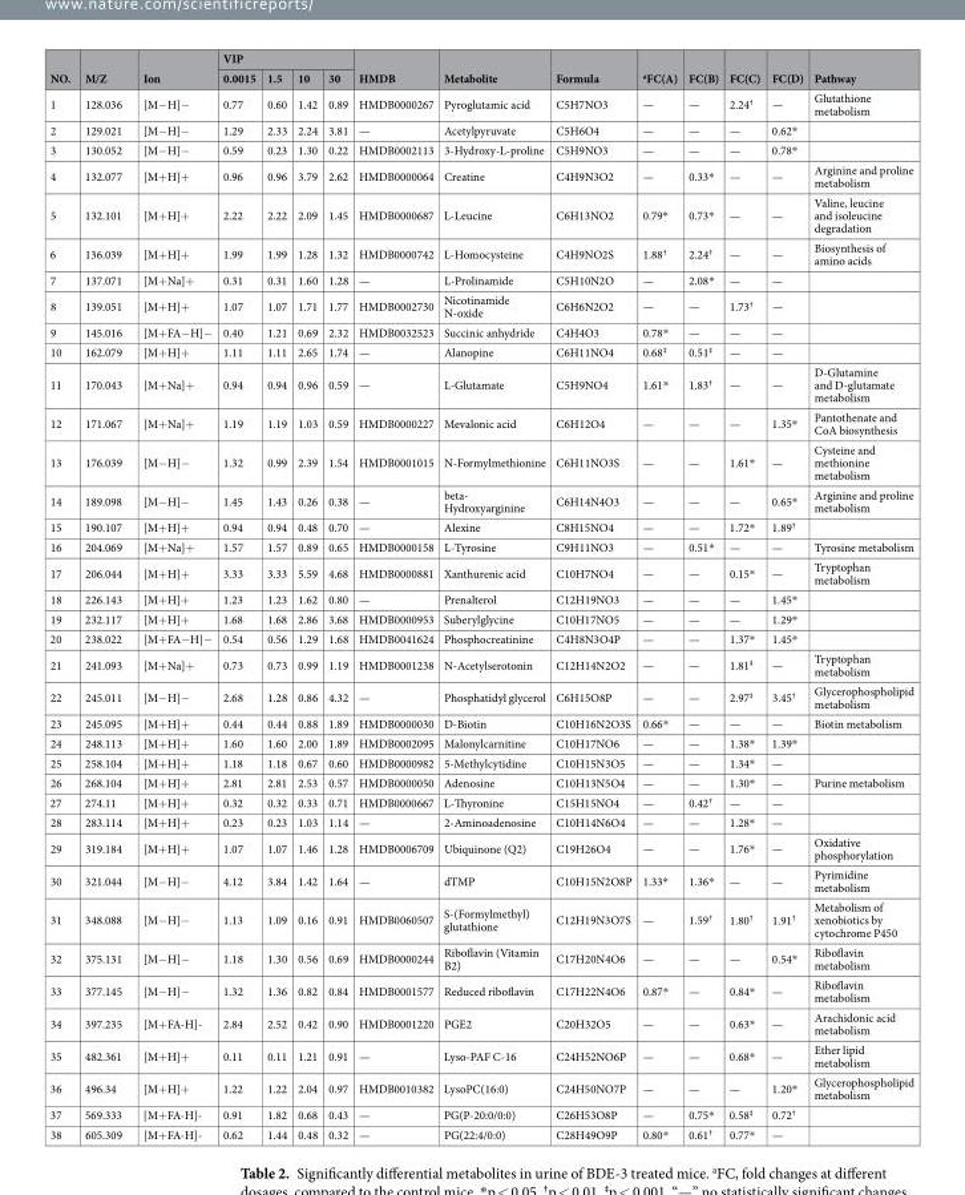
<table><thead><tr><td rowspan="2">NO.</td><td rowspan="2">M/Z</td><td rowspan="2">Ion</td><td colspan="4">VIP</td><td rowspan="2">HMDB</td><td rowspan="2">Metabolite</td><td rowspan="2">Formula</td><td rowspan="2"><sup>a</sup>FC(A)</td><td rowspan="2">FC(B)</td><td rowspan="2">FC(C)</td><td rowspan="2">FC(D)</td><td rowspan="2">Pathway</td></tr><tr><td>0.0015</td><td>1.5</td><td>10</td><td>30</td></tr></thead><tbody><tr><td>1</td><td>128.036</td><td>[M−H]−</td><td>0.77</td><td>0.60</td><td>1.42</td><td>0.89</td><td>HMDB0000267</td><td>Pyroglutamic acid</td><td>C5H7NO3</td><td>—</td><td>—</td><td>2.24<sup>†</sup></td><td>—</td><td>Glutathione metabolism</td></tr><tr><td>2</td><td>129.021</td><td>[M−H]−</td><td>1.29</td><td>2.33</td><td>2.24</td><td>3.81</td><td>—</td><td>Acetylpyruvate</td><td>C5H6O4</td><td>—</td><td>—</td><td>—</td><td>0.62*</td><td></td></tr><tr><td>3</td><td>130.052</td><td>[M−H]−</td><td>0.59</td><td>0.23</td><td>1.30</td><td>0.22</td><td>HMDB0002113</td><td>3-Hydroxy-L-proline</td><td>C5H9NO3</td><td>—</td><td>—</td><td>—</td><td>0.78*</td><td></td></tr><tr><td>4</td><td>132.077</td><td>[M+H]+</td><td>0.96</td><td>0.96</td><td>3.79</td><td>2.62</td><td>HMDB0000064</td><td>Creatine</td><td>C4H9N3O2</td><td>—</td><td>0.33*</td><td>—</td><td>—</td><td>Arginine and proline metabolism</td></tr><tr><td>5</td><td>132.101</td><td>[M+H]+</td><td>2.22</td><td>2.22</td><td>2.09</td><td>1.45</td><td>HMDB0000687</td><td>L-Leucine</td><td>C6H13NO2</td><td>0.79*</td><td>0.73*</td><td>—</td><td>—</td><td>Valine, leucine and isoleucine degradation</td></tr><tr><td>6</td><td>136.039</td><td>[M+H]+</td><td>1.99</td><td>1.99</td><td>1.28</td><td>1.32</td><td>HMDB0000742</td><td>L-Homocysteine</td><td>C4H9NO2S</td><td>1.88<sup>†</sup></td><td>2.24<sup>†</sup></td><td>—</td><td>—</td><td>Biosynthesis of amino acids</td></tr><tr><td>7</td><td>137.071</td><td>[M+Na]+</td><td>0.31</td><td>0.31</td><td>1.60</td><td>1.28</td><td>—</td><td>L-Prolinamide</td><td>C5H10N2O</td><td>—</td><td>2.08*</td><td>—</td><td>—</td><td></td></tr><tr><td>8</td><td>139.051</td><td>[M+H]+</td><td>1.07</td><td>1.07</td><td>1.71</td><td>1.77</td><td>HMDB0002730</td><td>Nicotinamide N-oxide</td><td>C6H6N2O2</td><td>—</td><td>—</td><td>1.73<sup>†</sup></td><td>—</td><td></td></tr><tr><td>9</td><td>145.016</td><td>[M+FA−H]−</td><td>0.40</td><td>1.21</td><td>0.69</td><td>2.32</td><td>HMDB0032523</td><td>Succinic anhydride</td><td>C4H4O3</td><td>0.78*</td><td>—</td><td>—</td><td>—</td><td></td></tr><tr><td>10</td><td>162.079</td><td>[M+H]+</td><td>1.11</td><td>1.11</td><td>2.65</td><td>1.74</td><td>—</td><td>Alanopine</td><td>C6H11NO4</td><td>0.68<sup>‡</sup></td><td>0.51<sup>‡</sup></td><td>—</td><td>—</td><td></td></tr><tr><td>11</td><td>170.043</td><td>[M+Na]+</td><td>0.94</td><td>0.94</td><td>0.96</td><td>0.59</td><td>—</td><td>L-Glutamate</td><td>C5H9NO4</td><td>1.61*</td><td>1.83<sup>†</sup></td><td>—</td><td>—</td><td>D-Glutamine and D-glutamate metabolism</td></tr><tr><td>12</td><td>171.067</td><td>[M+Na]+</td><td>1.19</td><td>1.19</td><td>1.03</td><td>0.59</td><td>HMDB0000227</td><td>Mevalonic acid</td><td>C6H12O4</td><td>—</td><td>—</td><td>—</td><td>1.35*</td><td>Pantothenate and CoA biosynthesis</td></tr><tr><td>13</td><td>176.039</td><td>[M−H]−</td><td>1.32</td><td>0.99</td><td>2.39</td><td>1.54</td><td>HMDB0001015</td><td>N-Formylmethionine</td><td>C6H11NO3S</td><td>—</td><td>—</td><td>1.61*</td><td>—</td><td>Cysteine and methionine metabolism</td></tr><tr><td>14</td><td>189.098</td><td>[M−H]−</td><td>1.45</td><td>1.43</td><td>0.26</td><td>0.38</td><td>—</td><td>beta- Hydroxyarginine</td><td>C6H14N4O3</td><td>—</td><td>—</td><td>—</td><td>0.65*</td><td>Arginine and proline metabolism</td></tr><tr><td>15</td><td>190.107</td><td>[M+H]+</td><td>0.94</td><td>0.94</td><td>0.48</td><td>0.70</td><td>—</td><td>Alexine</td><td>C8H15NO4</td><td>—</td><td>—</td><td>1.72*</td><td>1.89<sup>†</sup></td><td></td></tr><tr><td>16</td><td>204.069</td><td>[M+Na]+</td><td>1.57</td><td>1.57</td><td>0.89</td><td>0.65</td><td>HMDB0000158</td><td>L-Tyrosine</td><td>C9H11NO3</td><td>—</td><td>0.51*</td><td>—</td><td>—</td><td>Tyrosine metabolism</td></tr><tr><td>17</td><td>206.044</td><td>[M+H]+</td><td>3.33</td><td>3.33</td><td>5.59</td><td>4.68</td><td>HMDB0000881</td><td>Xanthurenic acid</td><td>C10H7NO4</td><td>—</td><td>—</td><td>0.15*</td><td>—</td><td>Tryptophan metabolism</td></tr><tr><td>18</td><td>226.143</td><td>[M+H]+</td><td>1.23</td><td>1.23</td><td>1.62</td><td>0.80</td><td>—</td><td>Prenalterol</td><td>C12H19NO3</td><td>—</td><td>—</td><td>—</td><td>1.45*</td><td></td></tr><tr><td>19</td><td>232.117</td><td>[M+H]+</td><td>1.68</td><td>1.68</td><td>2.86</td><td>3.68</td><td>HMDB0000953</td><td>Suberylglycine</td><td>C10H17NO5</td><td>—</td><td>—</td><td>—</td><td>1.29*</td><td></td></tr><tr><td>20</td><td>238.022</td><td>[M+FA−H]−</td><td>0.54</td><td>0.56</td><td>1.29</td><td>1.68</td><td>HMDB0041624</td><td>Phosphocreatinine</td><td>C4H8N3O4P</td><td>—</td><td>—</td><td>1.37*</td><td>1.45*</td><td></td></tr><tr><td>21</td><td>241.093</td><td>[M+Na]+</td><td>0.73</td><td>0.73</td><td>0.99</td><td>1.19</td><td>HMDB0001238</td><td>N-Acetylserotonin</td><td>C12H14N2O2</td><td>—</td><td>—</td><td>1.81<sup>‡</sup></td><td>—</td><td>Tryptophan metabolism</td></tr><tr><td>22</td><td>245.011</td><td>[M−H]−</td><td>2.68</td><td>1.28</td><td>0.86</td><td>4.32</td><td>—</td><td>Phosphatidyl glycerol</td><td>C6H15O8P</td><td>—</td><td>—</td><td>2.97<sup>‡</sup></td><td>3.45<sup>†</sup></td><td>Glycerophospholipid metabolism</td></tr><tr><td>23</td><td>245.095</td><td>[M+H]+</td><td>0.44</td><td>0.44</td><td>0.88</td><td>1.89</td><td>HMDB0000030</td><td>D-Biotin</td><td>C10H16N2O3S</td><td>0.66*</td><td>—</td><td>—</td><td>—</td><td>Biotin metabolism</td></tr><tr><td>24</td><td>248.113</td><td>[M+H]+</td><td>1.60</td><td>1.60</td><td>2.00</td><td>1.89</td><td>HMDB0002095</td><td>Malonylcarnitine</td><td>C10H17NO6</td><td>—</td><td>—</td><td>1.38*</td><td>1.39*</td><td></td></tr><tr><td>25</td><td>258.104</td><td>[M+H]+</td><td>1.18</td><td>1.18</td><td>0.67</td><td>0.60</td><td>HMDB0000982</td><td>5-Methylcytidine</td><td>C10H15N3O5</td><td>—</td><td>—</td><td>1.34*</td><td>—</td><td></td></tr><tr><td>26</td><td>268.104</td><td>[M+H]+</td><td>2.81</td><td>2.81</td><td>2.53</td><td>0.57</td><td>HMDB0000050</td><td>Adenosine</td><td>C10H13N5O4</td><td>—</td><td>—</td><td>1.30*</td><td>—</td><td>Purine metabolism</td></tr><tr><td>27</td><td>274.11</td><td>[M+H]+</td><td>0.32</td><td>0.32</td><td>0.33</td><td>0.71</td><td>HMDB0000667</td><td>L-Thyronine</td><td>C15H15NO4</td><td>—</td><td>0.42<sup>†</sup></td><td>—</td><td>—</td><td></td></tr><tr><td>28</td><td>283.114</td><td>[M+H]+</td><td>0.23</td><td>0.23</td><td>1.03</td><td>1.14</td><td>—</td><td>2-Aminoadenosine</td><td>C10H14N6O4</td><td>—</td><td>—</td><td>1.28*</td><td>—</td><td></td></tr><tr><td>29</td><td>319.184</td><td>[M+H]+</td><td>1.07</td><td>1.07</td><td>1.46</td><td>1.28</td><td>HMDB0006709</td><td>Ubiquinone (Q2)</td><td>C19H26O4</td><td>—</td><td>—</td><td>1.76*</td><td>—</td><td>Oxidative phosphorylation</td></tr><tr><td>30</td><td>321.044</td><td>[M−H]−</td><td>4.12</td><td>3.84</td><td>1.42</td><td>1.64</td><td>—</td><td>dTMP</td><td>C10H15N2O8P</td><td>1.33*</td><td>1.36*</td><td>—</td><td>—</td><td>Pyrimidine metabolism</td></tr><tr><td>31</td><td>348.088</td><td>[M−H]−</td><td>1.13</td><td>1.09</td><td>0.16</td><td>0.91</td><td>HMDB0060507</td><td>S-(Formylmethyl) glutathione</td><td>C12H19N3O7S</td><td>—</td><td>1.59<sup>†</sup></td><td>1.80<sup>†</sup></td><td>1.91<sup>†</sup></td><td>Metabolism of xenobiotics by cytochrome P450</td></tr><tr><td>32</td><td>375.131</td><td>[M−H]−</td><td>1.18</td><td>1.30</td><td>0.56</td><td>0.69</td><td>HMDB0000244</td><td>Riboflavin (Vitamin B2)</td><td>C17H20N4O6</td><td>—</td><td>—</td><td>—</td><td>0.54*</td><td>Riboflavin metabolism</td></tr><tr><td>33</td><td>377.145</td><td>[M−H]−</td><td>1.32</td><td>1.36</td><td>0.82</td><td>0.84</td><td>HMDB0001577</td><td>Reduced riboflavin</td><td>C17H22N4O6</td><td>0.87*</td><td>—</td><td>0.84*</td><td>—</td><td>Riboflavin metabolism</td></tr><tr><td>34</td><td>397.235</td><td>[M+FA-H]-</td><td>2.84</td><td>2.52</td><td>0.42</td><td>0.90</td><td>HMDB0001220</td><td>PGE2</td><td>C20H32O5</td><td>—</td><td>—</td><td>0.63*</td><td>—</td><td>Arachidonic acid metabolism</td></tr><tr><td>35</td><td>482.361</td><td>[M+H]+</td><td>0.11</td><td>0.11</td><td>1.21</td><td>0.91</td><td>—</td><td>Lyso-PAF C-16</td><td>C24H52NO6P</td><td>—</td><td>—</td><td>0.68*</td><td>—</td><td>Ether lipid metabolism</td></tr><tr><td>36</td><td>496.34</td><td>[M+H]+</td><td>1.22</td><td>1.22</td><td>2.04</td><td>0.97</td><td>HMDB0010382</td><td>LysoPC(16:0)</td><td>C24H50NO7P</td><td>—</td><td>—</td><td>—</td><td>1.20*</td><td>Glycerophospholipid metabolism</td></tr><tr><td>37</td><td>569.333</td><td>[M+FA-H]-</td><td>0.91</td><td>1.82</td><td>0.68</td><td>0.43</td><td>—</td><td>PG(P-20:0/0:0)</td><td>C26H53O8P</td><td>—</td><td>0.75*</td><td>0.58<sup>‡</sup></td><td>0.72<sup>†</sup></td><td></td></tr><tr><td>38</td><td>605.309</td><td>[M+FA-H]-</td><td>0.62</td><td>1.44</td><td>0.48</td><td>0.32</td><td>—</td><td>PG(22:4/0:0)</td><td>C28H49O9P</td><td>0.80*</td><td>0.61<sup>†</sup></td><td>0.77*</td><td>—</td><td></td></tr></tbody></table>